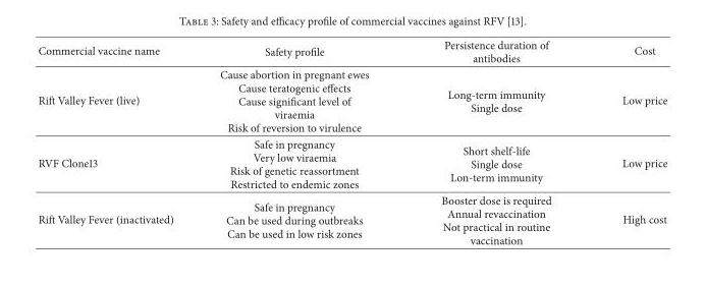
<table><thead><tr><td>Commercial vaccine name</td><td>Safety profile</td><td>Persistence duration of antibodies</td><td>Cost</td></tr></thead><tbody><tr><td>Rift Valley Fever (live)</td><td>Cause abortion in pregnant ewes Cause teratogenic effects Cause significant level of viraemia Risk of reversion to virulence</td><td>Long-term immunity Single dose</td><td>Low price</td></tr><tr><td>RVF Clone13</td><td>Safe in pregnancy Very low viraemia Risk of genetic reassortment Restricted to endemic zones</td><td>Short shelf-life Single dose Lon-term immunity</td><td>Low price</td></tr><tr><td>Rift Valley Fever (inactivated)</td><td>Safe in pregnancy Can be used during outbreaks Can be used in low risk zones</td><td>Booster dose is required Annual revaccination Not practical in routine vaccination</td><td>High cost</td></tr></tbody></table>